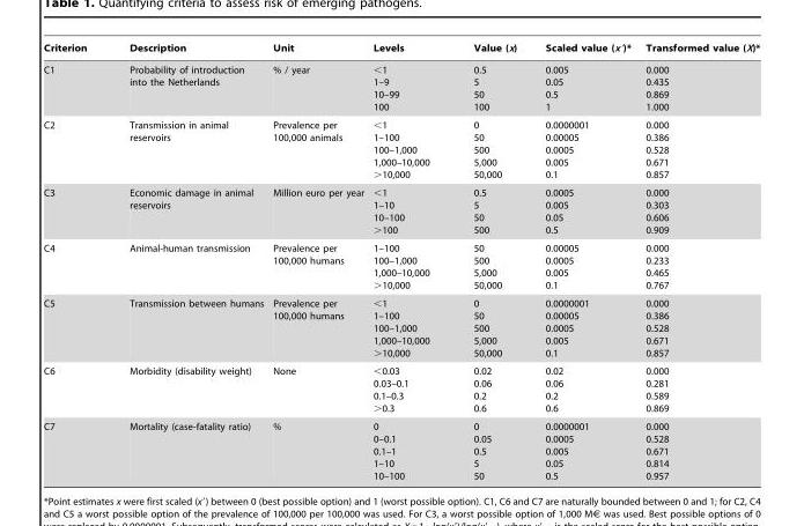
<table><thead><tr><td>Criterion</td><td>Description</td><td>Unit</td><td>Levels</td><td>Value (x)</td><td>Scaled value (x′)*</td><td>Transformed value (X)*</td></tr></thead><tbody><tr><td>C1</td><td>Probability of introduction into the Netherlands</td><td>% / year</td><td>&lt;1 1–9 10–99 100</td><td>0.5 5 50 100</td><td>0.005 0.05 0.5 1</td><td>0.000 0.435 0.869 1.000</td></tr><tr><td>C2</td><td>Transmission in animal reservoirs</td><td>Prevalence per 100,000 animals</td><td>&lt;1 1–100 100–1,000 1,000–10,000 &gt;10,000</td><td>0 50 500 5,000 50,000</td><td>0.0000001 0.00005 0.0005 0.005 0.1</td><td>0.000 0.386 0.528 0.671 0.857</td></tr><tr><td>C3</td><td>Economic damage in animal reservoirs</td><td>Million euro per year</td><td>&lt;1 1–10 10–100 &gt;100</td><td>0.5 5 50 500</td><td>0.0005 0.005 0.05 0.5</td><td>0.000 0.303 0.606 0.909</td></tr><tr><td>C4</td><td>Animal-human transmission</td><td>Prevalence per 100,000 humans</td><td>1–100 100–1,000 1,000–10,000 &gt;10,000</td><td>50 500 5,000 50,000</td><td>0.00005 0.0005 0.005 0.1</td><td>0.000 0.233 0.465 0.767</td></tr><tr><td>C5</td><td>Transmission between humans</td><td>Prevalence per 100,000 humans</td><td>&lt;1 1–100 100–1,000 1,000–10,000 &gt;10,000</td><td>0 50 500 5,000 50,000</td><td>0.0000001 0.00005 0.0005 0.005 0.1</td><td>0.000 0.386 0.528 0.671 0.857</td></tr><tr><td>C6</td><td>Morbidity (disability weight)</td><td>None</td><td>&lt;0.03 0.03–0.1 0.1–0.3 &gt;0.3</td><td>0.02 0.06 0.2 0.6</td><td>0.02 0.06 0.2 0.6</td><td>0.000 0.281 0.589 0.869</td></tr><tr><td>C7</td><td>Mortality (case-fatality ratio)</td><td>%</td><td>0 0–0.1 0.1–1 1–10 10–100</td><td>0 0.05 0.5 5 50</td><td>0.0000001 0.0005 0.005 0.05 0.5</td><td>0.000 0.528 0.671 0.814 0.957</td></tr></tbody></table>